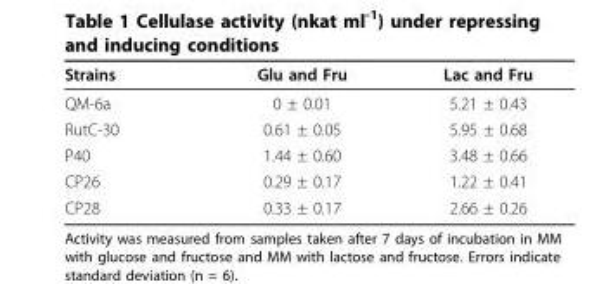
<table><thead><tr><td>Strains</td><td>Glu and Fru</td><td>Lac and Fru</td></tr></thead><tbody><tr><td>QM-6a</td><td>0 ± 0.01</td><td>5.21 ± 0.43</td></tr><tr><td>RutC-30</td><td>0.61 ± 0.05</td><td>5.95 ± 0.68</td></tr><tr><td>P40</td><td>1.44 ± 0.60</td><td>3.48 ± 0.66</td></tr><tr><td>CP26</td><td>0.29 ± 0.17</td><td>1.22 ± 0.41</td></tr><tr><td>CP28</td><td>0.33 ± 0.17</td><td>2.66 ± 0.26</td></tr></tbody></table>